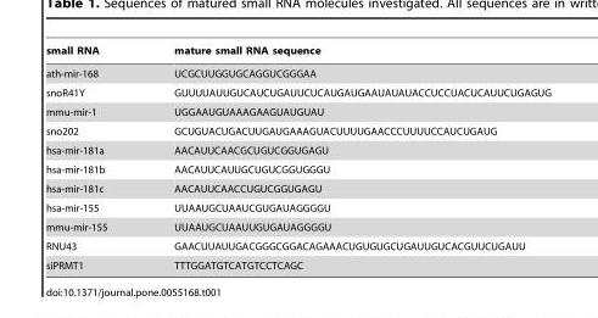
<table><thead><tr><td>small RNA</td><td>mature small RNA sequence</td></tr></thead><tbody><tr><td>ath-mir-168</td><td>UCGCUUGGUGCAGGUCGGGAA</td></tr><tr><td>snoR41Y</td><td>GUUUUAUUGUCAUCUGAUUCUCAUGAUGAAUAUAUACCUCCUACUCAUUCUGAGUG</td></tr><tr><td>mmu-mir-1</td><td>UGGAAUGUAAAGAAGUAUGUAU</td></tr><tr><td>sno202</td><td>GCUGUACUGACUUGAUGAAAGUACUUUUGAACCCUUUUCCAUCUGAUG</td></tr><tr><td>hsa-mir-181a</td><td>AACAUUCAACGCUGUCGGUGAGU</td></tr><tr><td>hsa-mir-181b</td><td>AACAUUCAUUGCUGUCGGUGGGU</td></tr><tr><td>hsa-mir-181c</td><td>AACAUUCAACCUGUCGGUGAGU</td></tr><tr><td>hsa-mir-155</td><td>UUAAUGCUAAUCGUGAUAGGGGU</td></tr><tr><td>mmu-mir-155</td><td>UUAAUGCUAAUUGUGAUAGGGGU</td></tr><tr><td>RNU43</td><td>GAACUUAUUGACGGGCGGACAGAAACUGUGUGCUGAUUGUCACGUUCUGAUU</td></tr><tr><td>siPRMT1</td><td>TTTGGATGTCATGTCCTCAGC</td></tr></tbody></table>